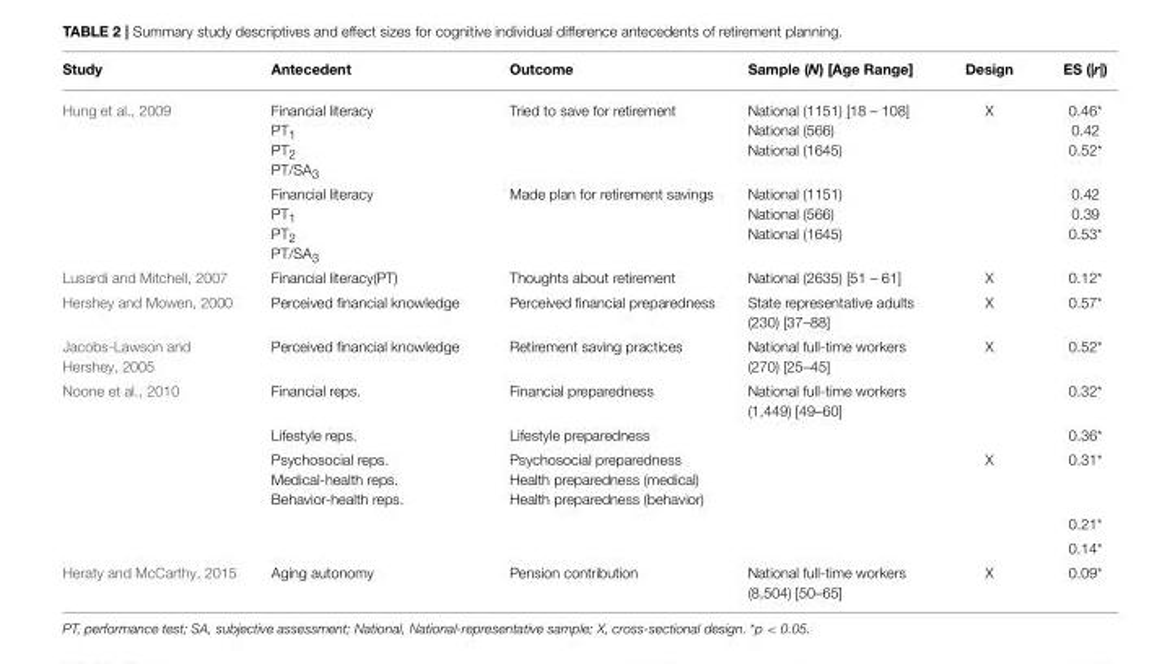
<table><thead><tr><td>Study</td><td>Antecedent</td><td>Outcome</td><td>Sample (N) [Age Range]</td><td>Design</td><td>ES (|r|)</td></tr></thead><tbody><tr><td rowspan="2">Hung et al., 2009</td><td>Financial literacy PT<sub>1</sub> PT<sub>2</sub> PT/SA<sub>3</sub></td><td>Tried to save for retirement</td><td>National (1151) [18 – 108] National (566) National (1645)</td><td>X</td><td>0.46* 0.42 0.52*</td></tr><tr><td>Financial literacy PT<sub>1</sub> PT<sub>2</sub> PT/SA<sub>3</sub></td><td>Made plan for retirement savings</td><td>National (1151) National (566) National (1645)</td><td></td><td>0.42 0.39 0.53*</td></tr><tr><td>Lusardi and Mitchell, 2007</td><td>Financial literacy(PT)</td><td>Thoughts about retirement</td><td>National (2635) [51 – 61]</td><td>X</td><td>0.12*</td></tr><tr><td>Hershey and Mowen, 2000</td><td>Perceived financial knowledge</td><td>Perceived financial preparedness</td><td>State representative adults (230) [37–88]</td><td>X</td><td>0.57*</td></tr><tr><td>Jacobs-Lawson and Hershey, 2005</td><td>Perceived financial knowledge</td><td>Retirement saving practices</td><td>National full-time workers (270) [25–45]</td><td>X</td><td>0.52*</td></tr><tr><td rowspan="5">Noone et al., 2010</td><td>Financial reps.</td><td>Financial preparedness</td><td>National full-time workers (1,449) [49–60]</td><td></td><td>0.32*</td></tr><tr><td>Lifestyle reps.</td><td>Lifestyle preparedness</td><td></td><td></td><td>0.36*</td></tr><tr><td>Psychosocial reps. Medical-health reps. Behavior-health reps.</td><td>Psychosocial preparedness Health preparedness (medical) Health preparedness (behavior)</td><td></td><td>X</td><td>0.31*</td></tr><tr><td></td><td></td><td></td><td></td><td>0.21*</td></tr><tr><td></td><td></td><td></td><td></td><td>0.14*</td></tr><tr><td>Heraty and McCarthy, 2015</td><td>Aging autonomy</td><td>Pension contribution</td><td>National full-time workers (8,504) [50–65]</td><td>X</td><td>0.09*</td></tr></tbody></table>